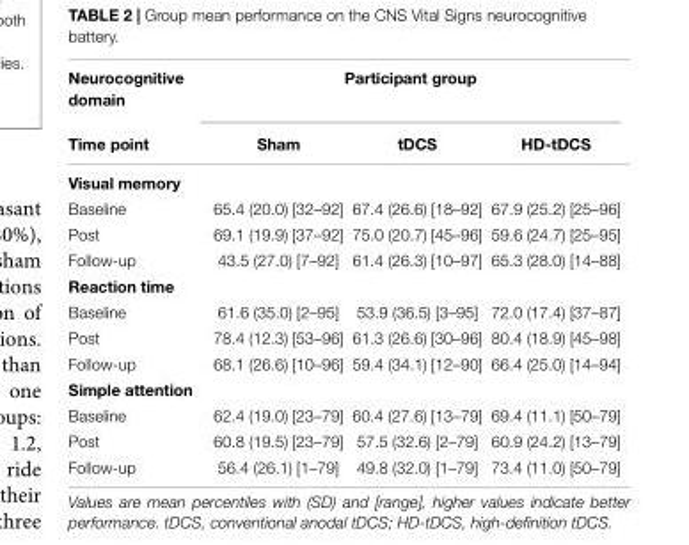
<table><thead><tr><td rowspan="2">Neurocognitive domain Time point</td><td colspan="3">Participant group</td></tr><tr><td>Sham</td><td>tDCS</td><td>HD-tDCS</td></tr></thead><tbody><tr><td colspan="4">Visual memory</td></tr><tr><td>Baseline</td><td>65.4 (20.0) [32–92]</td><td>67.4 (26.6) [18–92]</td><td>67.9 (25.2) [25–96]</td></tr><tr><td>Post</td><td>69.1 (19.9) [37–92]</td><td>75.0 (20.7) [45–96]</td><td>59.6 (24.7) [25–95]</td></tr><tr><td>Follow-up</td><td>43.5 (27.0) [7–92]</td><td>61.4 (26.3) [10–97]</td><td>65.3 (28.0) [14–88]</td></tr><tr><td colspan="4">Reaction time</td></tr><tr><td>Baseline</td><td>61.6 (35.0) [2–95]</td><td>53.9 (36.5) [3–95]</td><td>72.0 (17.4) [37–87]</td></tr><tr><td>Post</td><td>78.4 (12.3) [53–96]</td><td>61.3 (26.6) [30–96]</td><td>80.4 (18.9) [45–98]</td></tr><tr><td>Follow-up</td><td>68.1 (26.6) [10–96]</td><td>59.4 (34.1) [12–90]</td><td>66.4 (25.0) [14–94]</td></tr><tr><td colspan="4">Simple attention</td></tr><tr><td>Baseline</td><td>62.4 (19.0) [23–79]</td><td>60.4 (27.6) [13–79]</td><td>69.4 (11.1) [50–79]</td></tr><tr><td>Post</td><td>60.8 (19.5) [23–79]</td><td>57.5 (32.6) [2–79]</td><td>60.9 (24.2) [13–79]</td></tr><tr><td>Follow-up</td><td>56.4 (26.1) [1–79]</td><td>49.8 (32.0) [1–79]</td><td>73.4 (11.0) [50–79]</td></tr></tbody></table>